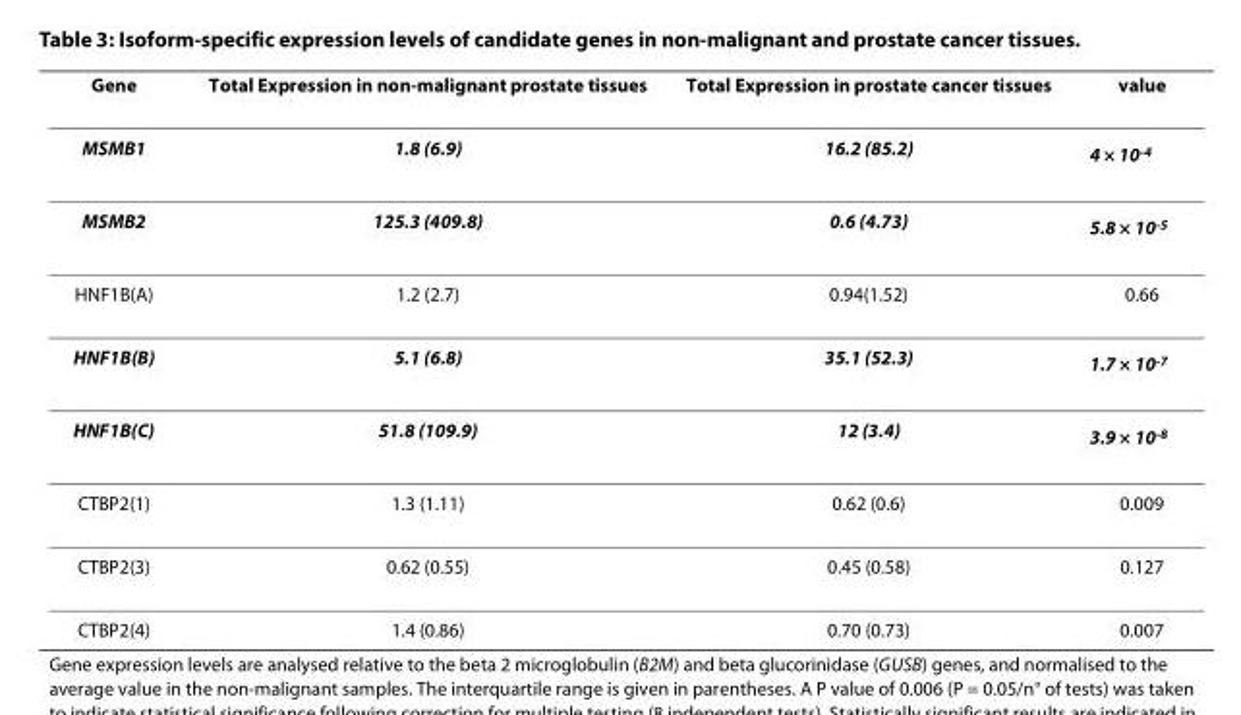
<table><thead><tr><td>Gene</td><td>Total Expression in non-malignant prostate tissues</td><td>Total Expression in prostate cancer tissues</td><td>value</td></tr></thead><tbody><tr><td>MSMB1</td><td>1.8 (6.9)</td><td>16.2 (85.2)</td><td>4 × 10<sup>-4</sup></td></tr><tr><td>MSMB2</td><td>125.3 (409.8)</td><td>0.6 (4.73)</td><td>5.8 × 10<sup>-5</sup></td></tr><tr><td>HNF1B(A)</td><td>1.2 (2.7)</td><td>0.94(1.52)</td><td>0.66</td></tr><tr><td>HNF1B(B)</td><td>5.1 (6.8)</td><td>35.1 (52.3)</td><td>1.7 × 10<sup>-7</sup></td></tr><tr><td>HNF1B(C)</td><td>51.8 (109.9)</td><td>12 (3.4)</td><td>3.9 × 10<sup>-8</sup></td></tr><tr><td>CTBP2(1)</td><td>1.3 (1.11)</td><td>0.62 (0.6)</td><td>0.009</td></tr><tr><td>CTBP2(3)</td><td>0.62 (0.55)</td><td>0.45 (0.58)</td><td>0.127</td></tr><tr><td>CTBP2(4)</td><td>1.4 (0.86)</td><td>0.70 (0.73)</td><td>0.007</td></tr></tbody></table>